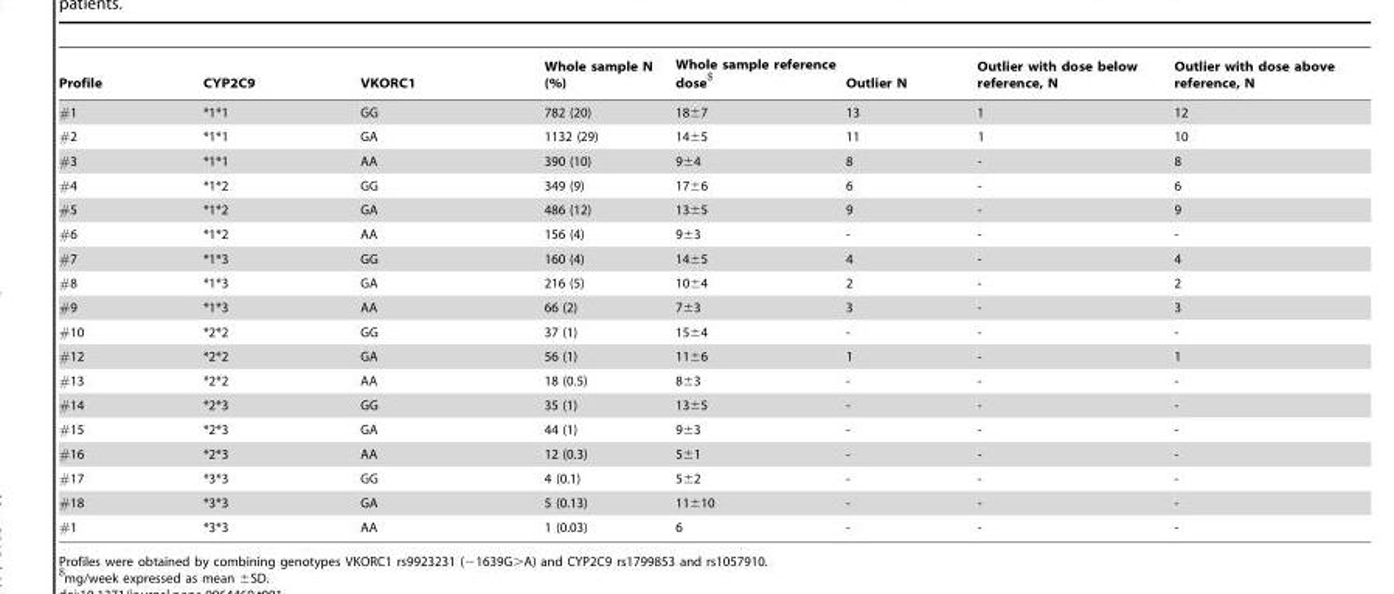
<table><thead><tr><td>Profile</td><td>CYP2C9</td><td>VKORC1</td><td>Whole sample N (%)</td><td>Whole sample reference dose$</td><td>Outlier N</td><td>Outlier with dose below reference, N</td><td>Outlier with dose above reference, N</td></tr></thead><tbody><tr><td>#1</td><td>*1*1</td><td>GG</td><td>782 (20)</td><td>18±7</td><td>13</td><td>1</td><td>12</td></tr><tr><td>#2</td><td>*1*1</td><td>GA</td><td>1132 (29)</td><td>14±5</td><td>11</td><td>1</td><td>10</td></tr><tr><td>#3</td><td>*1*1</td><td>AA</td><td>390 (10)</td><td>9±4</td><td>8</td><td>-</td><td>8</td></tr><tr><td>#4</td><td>*1*2</td><td>GG</td><td>349 (9)</td><td>17±6</td><td>6</td><td>-</td><td>6</td></tr><tr><td>#5</td><td>*1*2</td><td>GA</td><td>486 (12)</td><td>13±5</td><td>9</td><td>-</td><td>9</td></tr><tr><td>#6</td><td>*1*2</td><td>AA</td><td>156 (4)</td><td>9±3</td><td>-</td><td>-</td><td>-</td></tr><tr><td>#7</td><td>*1*3</td><td>GG</td><td>160 (4)</td><td>14±5</td><td>4</td><td>-</td><td>4</td></tr><tr><td>#8</td><td>*1*3</td><td>GA</td><td>216 (5)</td><td>10±4</td><td>2</td><td>-</td><td>2</td></tr><tr><td>#9</td><td>*1*3</td><td>AA</td><td>66 (2)</td><td>7±3</td><td>3</td><td>-</td><td>3</td></tr><tr><td>#10</td><td>*2*2</td><td>GG</td><td>37 (1)</td><td>15±4</td><td>-</td><td>-</td><td>-</td></tr><tr><td>#12</td><td>*2*2</td><td>GA</td><td>56 (1)</td><td>11±6</td><td>1</td><td>-</td><td>1</td></tr><tr><td>#13</td><td>*2*2</td><td>AA</td><td>18 (0.5)</td><td>8±3</td><td>-</td><td>-</td><td>-</td></tr><tr><td>#14</td><td>*2*3</td><td>GG</td><td>35 (1)</td><td>13±5</td><td>-</td><td>-</td><td>-</td></tr><tr><td>#15</td><td>*2*3</td><td>GA</td><td>44 (1)</td><td>9±3</td><td>-</td><td>-</td><td>-</td></tr><tr><td>#16</td><td>*2*3</td><td>AA</td><td>12 (0.3)</td><td>5±1</td><td>-</td><td>-</td><td>-</td></tr><tr><td>#17</td><td>*3*3</td><td>GG</td><td>4 (0.1)</td><td>5±2</td><td>-</td><td>-</td><td>-</td></tr><tr><td>#18</td><td>*3*3</td><td>GA</td><td>5 (0.13)</td><td>11±10</td><td>-</td><td>-</td><td>-</td></tr><tr><td>#1</td><td>*3*3</td><td>AA</td><td>1 (0.03)</td><td>6</td><td>-</td><td>-</td><td>-</td></tr></tbody></table>